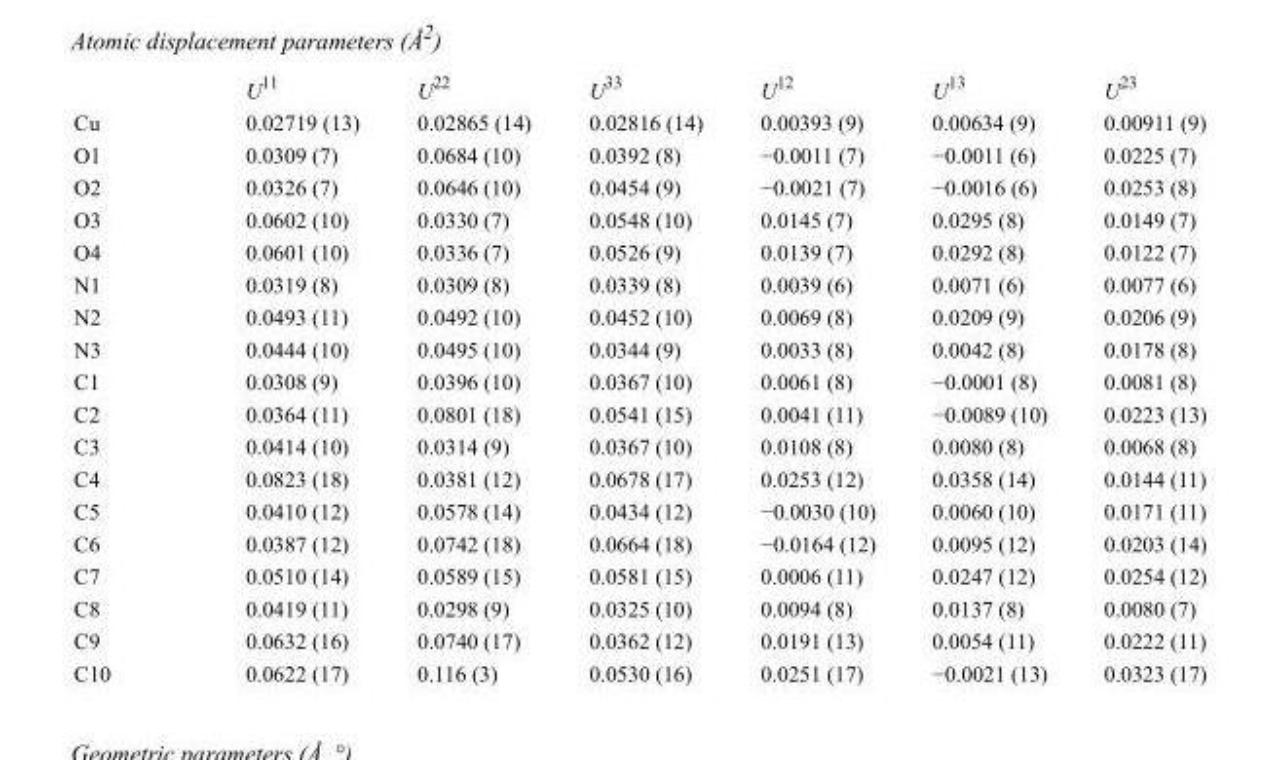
<table><thead><tr><td></td><td>U<sup>11</sup></td><td>U<sup>22</sup></td><td>U<sup>33</sup></td><td>U<sup>12</sup></td><td>U<sup>13</sup></td><td>U<sup>23</sup></td></tr></thead><tbody><tr><td>Cu</td><td>0.02719 (13)</td><td>0.02865 (14)</td><td>0.02816 (14)</td><td>0.00393 (9)</td><td>0.00634 (9)</td><td>0.00911 (9)</td></tr><tr><td>O1</td><td>0.0309 (7)</td><td>0.0684 (10)</td><td>0.0392 (8)</td><td>−0.0011 (7)</td><td>−0.0011 (6)</td><td>0.0225 (7)</td></tr><tr><td>O2</td><td>0.0326 (7)</td><td>0.0646 (10)</td><td>0.0454 (9)</td><td>−0.0021 (7)</td><td>−0.0016 (6)</td><td>0.0253 (8)</td></tr><tr><td>O3</td><td>0.0602 (10)</td><td>0.0330 (7)</td><td>0.0548 (10)</td><td>0.0145 (7)</td><td>0.0295 (8)</td><td>0.0149 (7)</td></tr><tr><td>O4</td><td>0.0601 (10)</td><td>0.0336 (7)</td><td>0.0526 (9)</td><td>0.0139 (7)</td><td>0.0292 (8)</td><td>0.0122 (7)</td></tr><tr><td>N1</td><td>0.0319 (8)</td><td>0.0309 (8)</td><td>0.0339 (8)</td><td>0.0039 (6)</td><td>0.0071 (6)</td><td>0.0077 (6)</td></tr><tr><td>N2</td><td>0.0493 (11)</td><td>0.0492 (10)</td><td>0.0452 (10)</td><td>0.0069 (8)</td><td>0.0209 (9)</td><td>0.0206 (9)</td></tr><tr><td>N3</td><td>0.0444 (10)</td><td>0.0495 (10)</td><td>0.0344 (9)</td><td>0.0033 (8)</td><td>0.0042 (8)</td><td>0.0178 (8)</td></tr><tr><td>C1</td><td>0.0308 (9)</td><td>0.0396 (10)</td><td>0.0367 (10)</td><td>0.0061 (8)</td><td>−0.0001 (8)</td><td>0.0081 (8)</td></tr><tr><td>C2</td><td>0.0364 (11)</td><td>0.0801 (18)</td><td>0.0541 (15)</td><td>0.0041 (11)</td><td>−0.0089 (10)</td><td>0.0223 (13)</td></tr><tr><td>C3</td><td>0.0414 (10)</td><td>0.0314 (9)</td><td>0.0367 (10)</td><td>0.0108 (8)</td><td>0.0080 (8)</td><td>0.0068 (8)</td></tr><tr><td>C4</td><td>0.0823 (18)</td><td>0.0381 (12)</td><td>0.0678 (17)</td><td>0.0253 (12)</td><td>0.0358 (14)</td><td>0.0144 (11)</td></tr><tr><td>C5</td><td>0.0410 (12)</td><td>0.0578 (14)</td><td>0.0434 (12)</td><td>−0.0030 (10)</td><td>0.0060 (10)</td><td>0.0171 (11)</td></tr><tr><td>C6</td><td>0.0387 (12)</td><td>0.0742 (18)</td><td>0.0664 (18)</td><td>−0.0164 (12)</td><td>0.0095 (12)</td><td>0.0203 (14)</td></tr><tr><td>C7</td><td>0.0510 (14)</td><td>0.0589 (15)</td><td>0.0581 (15)</td><td>0.0006 (11)</td><td>0.0247 (12)</td><td>0.0254 (12)</td></tr><tr><td>C8</td><td>0.0419 (11)</td><td>0.0298 (9)</td><td>0.0325 (10)</td><td>0.0094 (8)</td><td>0.0137 (8)</td><td>0.0080 (7)</td></tr><tr><td>C9</td><td>0.0632 (16)</td><td>0.0740 (17)</td><td>0.0362 (12)</td><td>0.0191 (13)</td><td>0.0054 (11)</td><td>0.0222 (11)</td></tr><tr><td>C10</td><td>0.0622 (17)</td><td>0.116 (3)</td><td>0.0530 (16)</td><td>0.0251 (17)</td><td>−0.0021 (13)</td><td>0.0323 (17)</td></tr></tbody></table>